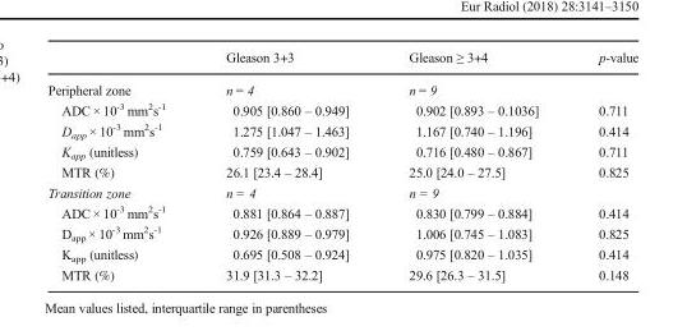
<table><thead><tr><td></td><td>Gleason 3+3</td><td>Gleason ≥ 3+4</td><td>p-value</td></tr></thead><tbody><tr><td>Peripheral zone</td><td>n = 4</td><td>n = 9</td><td></td></tr><tr><td>ADC × 10<sup>-3</sup> mm<sup>2</sup>s<sup>-1</sup></td><td>0.905 [0.860 – 0.949]</td><td>0.902 [0.893 – 0.1036]</td><td>0.711</td></tr><tr><td>D<sub>app</sub> × 10<sup>-3</sup> mm<sup>2</sup>s<sup>-1</sup></td><td>1.275 [1.047 – 1.463]</td><td>1.167 [0.740 – 1.196]</td><td>0.414</td></tr><tr><td>K<sub>app</sub> (unitless)</td><td>0.759 [0.643 – 0.902]</td><td>0.716 [0.480 – 0.867]</td><td>0.711</td></tr><tr><td>MTR (%)</td><td>26.1 [23.4 – 28.4]</td><td>25.0 [24.0 – 27.5]</td><td>0.825</td></tr><tr><td>Transition zone</td><td>n = 4</td><td>n = 9</td><td></td></tr><tr><td>ADC × 10<sup>-3</sup> mm<sup>2</sup>s<sup>-1</sup></td><td>0.881 [0.864 – 0.887]</td><td>0.830 [0.799 – 0.884]</td><td>0.414</td></tr><tr><td>D<sub>app</sub> × 10<sup>-3</sup> mm<sup>2</sup>s<sup>-1</sup></td><td>0.926 [0.889 – 0.979]</td><td>1.006 [0.745 – 1.083]</td><td>0.825</td></tr><tr><td>K<sub>app</sub> (unitless)</td><td>0.695 [0.508 – 0.924]</td><td>0.975 [0.820 – 1.035]</td><td>0.414</td></tr><tr><td>MTR (%)</td><td>31.9 [31.3 – 32.2]</td><td>29.6 [26.3 – 31.5]</td><td>0.148</td></tr></tbody></table>